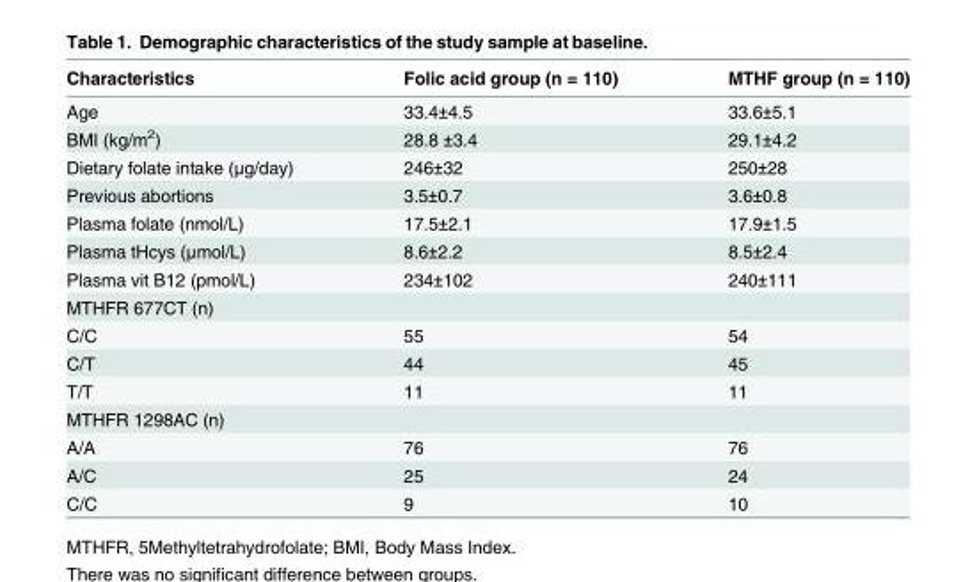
<table><thead><tr><td>Characteristics</td><td>Folic acid group (n = 110)</td><td>MTHF group (n = 110)</td></tr></thead><tbody><tr><td>Age</td><td>33.4±4.5</td><td>33.6±5.1</td></tr><tr><td>BMI (kg/m<sup>2</sup>)</td><td>28.8 ±3.4</td><td>29.1±4.2</td></tr><tr><td>Dietary folate intake (μg/day)</td><td>246±32</td><td>250±28</td></tr><tr><td>Previous abortions</td><td>3.5±0.7</td><td>3.6±0.8</td></tr><tr><td>Plasma folate (nmol/L)</td><td>17.5±2.1</td><td>17.9±1.5</td></tr><tr><td>Plasma tHcys (μmol/L)</td><td>8.6±2.2</td><td>8.5±2.4</td></tr><tr><td>Plasma vit B12 (pmol/L)</td><td>234±102</td><td>240±111</td></tr><tr><td colspan="3">MTHFR 677CT (n)</td></tr><tr><td>C/C</td><td>55</td><td>54</td></tr><tr><td>C/T</td><td>44</td><td>45</td></tr><tr><td>T/T</td><td>11</td><td>11</td></tr><tr><td colspan="3">MTHFR 1298AC (n)</td></tr><tr><td>A/A</td><td>76</td><td>76</td></tr><tr><td>A/C</td><td>25</td><td>24</td></tr><tr><td>C/C</td><td>9</td><td>10</td></tr></tbody></table>